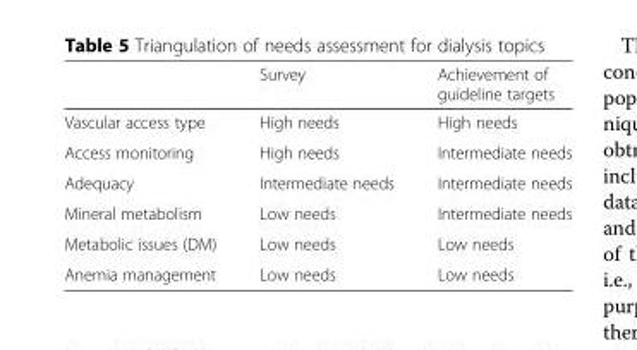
<table><thead><tr><td></td><td>Survey</td><td>Achievement of guideline targets</td></tr></thead><tbody><tr><td>Vascular access type</td><td>High needs</td><td>High needs</td></tr><tr><td>Access monitoring</td><td>High needs</td><td>Intermediate needs</td></tr><tr><td>Adequacy</td><td>Intermediate needs</td><td>Intermediate needs</td></tr><tr><td>Mineral metabolism</td><td>Low needs</td><td>Intermediate needs</td></tr><tr><td>Metabolic issues (DM)</td><td>Low needs</td><td>Low needs</td></tr><tr><td>Anemia management</td><td>Low needs</td><td>Low needs</td></tr></tbody></table>